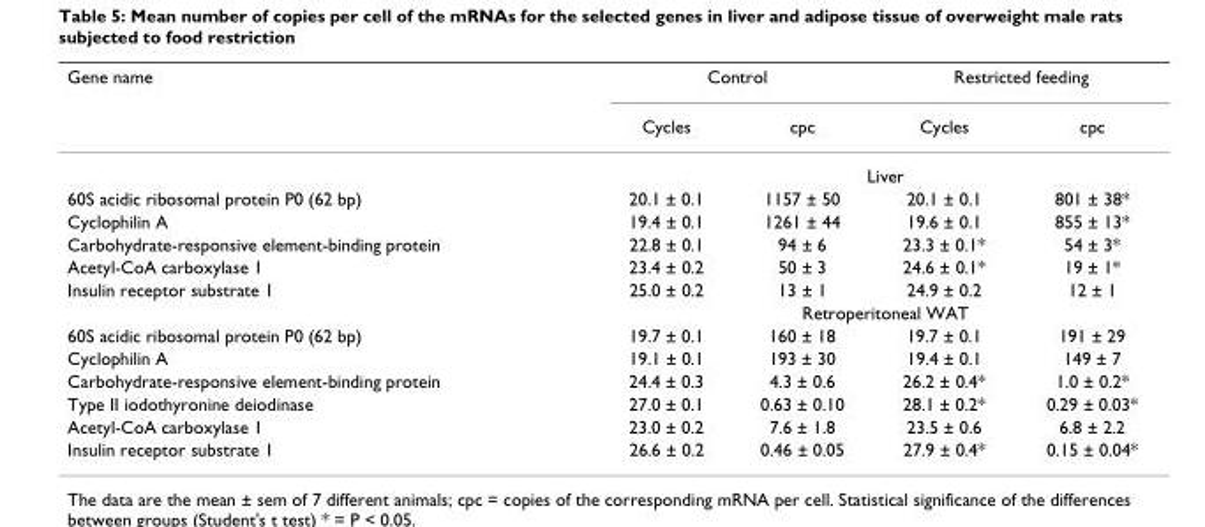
<table><thead><tr><td rowspan="2">Gene name</td><td colspan="2">Control</td><td colspan="2">Restricted feeding</td></tr><tr><td>Cycles</td><td>cpc</td><td>Cycles</td><td>cpc</td></tr></thead><tbody><tr><td></td><td colspan="4">Liver</td></tr><tr><td>60S acidic ribosomal protein P0 (62 bp)</td><td>20.1 ± 0.1</td><td>1157 ± 50</td><td>20.1 ± 0.1</td><td>801 ± 38*</td></tr><tr><td>Cyclophilin A</td><td>19.4 ± 0.1</td><td>1261 ± 44</td><td>19.6 ± 0.1</td><td>855 ± 13*</td></tr><tr><td>Carbohydrate-responsive element-binding protein</td><td>22.8 ± 0.1</td><td>94 ± 6</td><td>23.3 ± 0.1*</td><td>54 ± 3*</td></tr><tr><td>Acetyl-CoA carboxylase 1</td><td>23.4 ± 0.2</td><td>50 ± 3</td><td>24.6 ± 0.1*</td><td>19 ± 1*</td></tr><tr><td rowspan="2">Insulin receptor substrate 1</td><td>25.0 ± 0.2</td><td>13 ± 1</td><td>24.9 ± 0.2</td><td>12 ± 1</td></tr><tr><td colspan="4">Retroperitoneal WAT</td></tr><tr><td>60S acidic ribosomal protein P0 (62 bp)</td><td>19.7 ± 0.1</td><td>160 ± 18</td><td>19.7 ± 0.1</td><td>191 ± 29</td></tr><tr><td>Cyclophilin A</td><td>19.1 ± 0.1</td><td>193 ± 30</td><td>19.4 ± 0.1</td><td>149 ± 7</td></tr><tr><td>Carbohydrate-responsive element-binding protein</td><td>24.4 ± 0.3</td><td>4.3 ± 0.6</td><td>26.2 ± 0.4*</td><td>1.0 ± 0.2*</td></tr><tr><td>Type II iodothyronine deiodinase</td><td>27.0 ± 0.1</td><td>0.63 ± 0.10</td><td>28.1 ± 0.2*</td><td>0.29 ± 0.03*</td></tr><tr><td>Acetyl-CoA carboxylase 1</td><td>23.0 ± 0.2</td><td>7.6 ± 1.8</td><td>23.5 ± 0.6</td><td>6.8 ± 2.2</td></tr><tr><td>Insulin receptor substrate 1</td><td>26.6 ± 0.2</td><td>0.46 ± 0.05</td><td>27.9 ± 0.4*</td><td>0.15 ± 0.04*</td></tr></tbody></table>